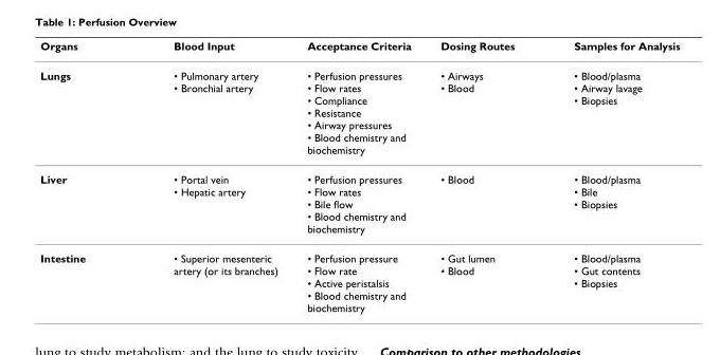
<table><thead><tr><td>Organs</td><td>Blood Input</td><td>Acceptance Criteria</td><td>Dosing Routes</td><td>Samples for Analysis</td></tr></thead><tbody><tr><td>Lungs</td><td>• Pulmonary artery • Bronchial artery</td><td>• Perfusion pressures • Flow rates • Compliance • Resistance • Airway pressures • Blood chemistry and biochemistry</td><td>• Airways • Blood</td><td>• Blood/plasma • Airway lavage • Biopsies</td></tr><tr><td>Liver</td><td>• Portal vein • Hepatic artery</td><td>• Perfusion pressures • Flow rates • Bile flow • Blood chemistry and biochemistry</td><td>• Blood</td><td>• Blood/plasma • Bile • Biopsies</td></tr><tr><td>Intestine</td><td>• Superior mesenteric artery (or its branches)</td><td>• Perfusion pressure • Flow rate • Active peristalsis • Blood chemistry and biochemistry</td><td>• Gut lumen • Blood</td><td>• Blood/plasma • Gut contents • Biopsies</td></tr></tbody></table>